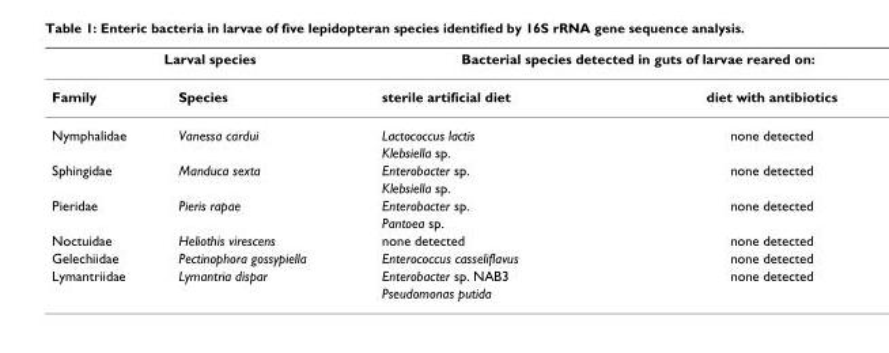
<table><thead><tr><td colspan="2">Larval species</td><td colspan="2">Bacterial species detected in guts of larvae reared on:</td></tr><tr><td>Family</td><td>Species</td><td>sterile artificial diet</td><td>diet with antibiotics</td></tr></thead><tbody><tr><td rowspan="2">Nymphalidae</td><td>Vanessa cardui</td><td>Lactococcus lactis</td><td>none detected</td></tr><tr><td></td><td>Klebsiella sp.</td><td></td></tr><tr><td rowspan="2">Sphingidae</td><td>Manduca sexta</td><td>Enterobacter sp.</td><td>none detected</td></tr><tr><td></td><td>Klebsiella sp.</td><td></td></tr><tr><td rowspan="2">Pieridae</td><td>Pieris rapae</td><td>Enterobacter sp.</td><td>none detected</td></tr><tr><td></td><td>Pantoea sp.</td><td></td></tr><tr><td>Noctuidae</td><td>Heliothis virescens</td><td>none detected</td><td>none detected</td></tr><tr><td>Gelechiidae</td><td>Pectinophora gossypiella</td><td>Enterococcus casseliflavus</td><td>none detected</td></tr><tr><td rowspan="2">Lymantriidae</td><td>Lymantria dispar</td><td>Enterobacter sp. NAB3</td><td>none detected</td></tr><tr><td></td><td>Pseudomonas putida</td><td></td></tr></tbody></table>